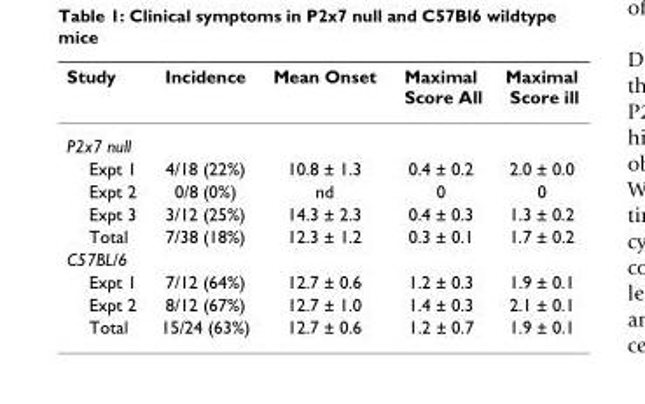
<table><thead><tr><td>Study</td><td>Incidence</td><td>Mean Onset</td><td>Maximal Score All</td><td>Maximal Score ill</td></tr></thead><tbody><tr><td colspan="5">P2x7 null</td></tr><tr><td>Expt 1</td><td>4/18 (22%)</td><td>10.8 ± 1.3</td><td>0.4 ± 0.2</td><td>2.0 ± 0.0</td></tr><tr><td>Expt 2</td><td>0/8 (0%)</td><td>nd</td><td>0</td><td>0</td></tr><tr><td>Expt 3</td><td>3/12 (25%)</td><td>14.3 ± 2.3</td><td>0.4 ± 0.3</td><td>1.3 ± 0.2</td></tr><tr><td>Total</td><td>7/38 (18%)</td><td>12.3 ± 1.2</td><td>0.3 ± 0.1</td><td>1.7 ± 0.2</td></tr><tr><td colspan="5">C57BL/6</td></tr><tr><td>Expt 1</td><td>7/12 (64%)</td><td>12.7 ± 0.6</td><td>1.2 ± 0.3</td><td>1.9 ± 0.1</td></tr><tr><td>Expt 2</td><td>8/12 (67%)</td><td>12.7 ± 1.0</td><td>1.4 ± 0.3</td><td>2.1 ± 0.1</td></tr><tr><td>Total</td><td>15/24 (63%)</td><td>12.7 ± 0.6</td><td>1.2 ± 0.7</td><td>1.9 ± 0.1</td></tr></tbody></table>